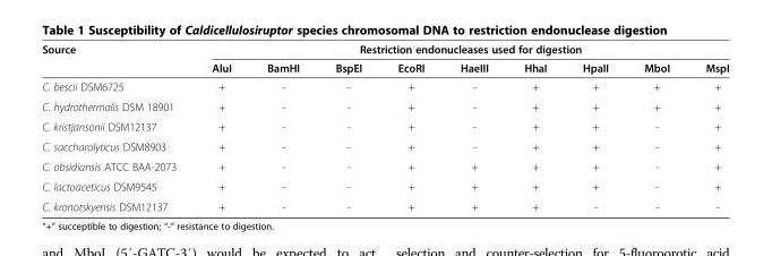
<table><thead><tr><td rowspan="2">Source</td><td colspan="9">Restriction endonucleases used for digestion</td></tr><tr><td>AluI</td><td>BamHI</td><td>BspEI</td><td>EcoRI</td><td>HaeIII</td><td>HhaI</td><td>HpaII</td><td>MboI</td><td>MspI</td></tr></thead><tbody><tr><td>C. bescii DSM6725</td><td>+</td><td>-</td><td>-</td><td>+</td><td>-</td><td>+</td><td>+</td><td>+</td><td>+</td></tr><tr><td>C. hydrothermalis DSM 18901</td><td>+</td><td>-</td><td>-</td><td>+</td><td>-</td><td>+</td><td>+</td><td>+</td><td>+</td></tr><tr><td>C. kristjansonii DSM12137</td><td>+</td><td>-</td><td>-</td><td>+</td><td>-</td><td>+</td><td>+</td><td>-</td><td>+</td></tr><tr><td>C. saccharolyticus DSM8903</td><td>+</td><td>-</td><td>-</td><td>+</td><td>-</td><td>+</td><td>+</td><td>-</td><td>+</td></tr><tr><td>C. obsidiansis ATCC BAA-2073</td><td>+</td><td>-</td><td>-</td><td>+</td><td>+</td><td>+</td><td>+</td><td>-</td><td>+</td></tr><tr><td>C. lactoaceticus DSM9545</td><td>+</td><td>-</td><td>-</td><td>+</td><td>+</td><td>+</td><td>+</td><td>-</td><td>+</td></tr><tr><td>C. kronotskyensis DSM12137</td><td>+</td><td>-</td><td>-</td><td>+</td><td>+</td><td>+</td><td>-</td><td>-</td><td>-</td></tr></tbody></table>